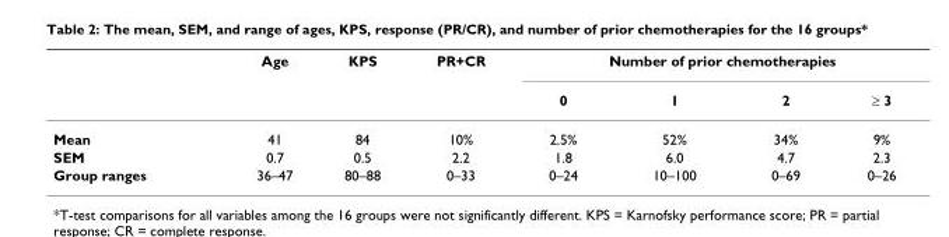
<table><thead><tr><td rowspan="2"></td><td rowspan="2">Age</td><td rowspan="2">KPS</td><td rowspan="2">PR+CR</td><td colspan="4">Number of prior chemotherapies</td></tr><tr><td>0</td><td>1</td><td>2</td><td>≥ 3</td></tr></thead><tbody><tr><td>Mean</td><td>41</td><td>84</td><td>10%</td><td>2.5%</td><td>52%</td><td>34%</td><td>9%</td></tr><tr><td>SEM</td><td>0.7</td><td>0.5</td><td>2.2</td><td>1.8</td><td>6.0</td><td>4.7</td><td>2.3</td></tr><tr><td>Group ranges</td><td>36–47</td><td>80–88</td><td>0–33</td><td>0–24</td><td>10–100</td><td>0–69</td><td>0–26</td></tr></tbody></table>